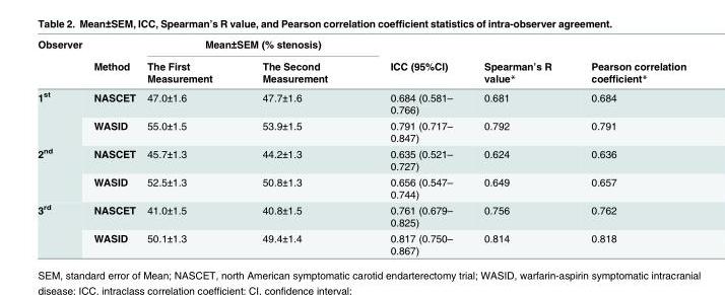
<table><thead><tr><td rowspan="2">Observer</td><td rowspan="2">Method</td><td colspan="2">Mean±SEM (% stenosis)</td><td rowspan="2">ICC (95%CI)</td><td rowspan="2">Spearman’s R value*</td><td rowspan="2">Pearson correlation coefficient*</td></tr><tr><td>The First Measurement</td><td>The Second Measurement</td></tr></thead><tbody><tr><td rowspan="2">1<sup>st</sup></td><td>NASCET</td><td>47.0±1.6</td><td>47.7±1.6</td><td>0.684 (0.581– 0.766)</td><td>0.681</td><td>0.684</td></tr><tr><td>WASID</td><td>55.0±1.5</td><td>53.9±1.5</td><td>0.791 (0.717– 0.847)</td><td>0.792</td><td>0.791</td></tr><tr><td rowspan="2">2<sup>nd</sup></td><td>NASCET</td><td>45.7±1.3</td><td>44.2±1.3</td><td>0.635 (0.521– 0.727)</td><td>0.624</td><td>0.636</td></tr><tr><td>WASID</td><td>52.5±1.3</td><td>50.8±1.3</td><td>0.656 (0.547– 0.744)</td><td>0.649</td><td>0.657</td></tr><tr><td rowspan="2">3<sup>rd</sup></td><td>NASCET</td><td>41.0±1.5</td><td>40.8±1.5</td><td>0.761 (0.679– 0.825)</td><td>0.756</td><td>0.762</td></tr><tr><td>WASID</td><td>50.1±1.3</td><td>49.4±1.4</td><td>0.817 (0.750– 0.867)</td><td>0.814</td><td>0.818</td></tr></tbody></table>